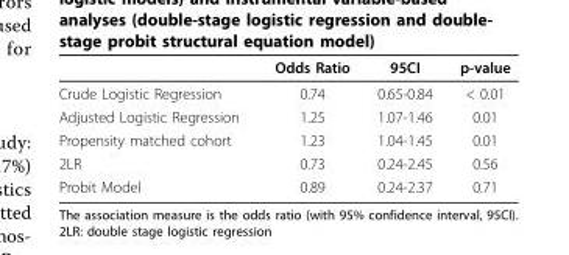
<table><thead><tr><td></td><td>Odds Ratio</td><td>95CI</td><td>p-value</td></tr></thead><tbody><tr><td>Crude Logistic Regression</td><td>0.74</td><td>0.65-0.84</td><td>&lt; 0.01</td></tr><tr><td>Adjusted Logistic Regression</td><td>1.25</td><td>1.07-1.46</td><td>0.01</td></tr><tr><td>Propensity matched cohort</td><td>1.23</td><td>1.04-1.45</td><td>0.01</td></tr><tr><td>2LR</td><td>0.73</td><td>0.24-2.45</td><td>0.56</td></tr><tr><td>Probit Model</td><td>0.89</td><td>0.24-2.37</td><td>0.71</td></tr></tbody></table>